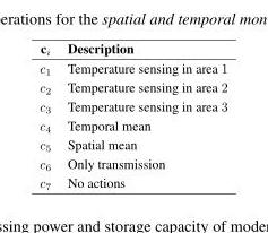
<table><thead><tr><td>c<sub>i</sub></td><td>Description</td></tr></thead><tbody><tr><td>c<sub>1</sub></td><td>Temperature sensing in area 1</td></tr><tr><td>c<sub>2</sub></td><td>Temperature sensing in area 2</td></tr><tr><td>c<sub>3</sub></td><td>Temperature sensing in area 3</td></tr><tr><td>c<sub>4</sub></td><td>Temporal mean</td></tr><tr><td>c<sub>5</sub></td><td>Spatial mean</td></tr><tr><td>c<sub>6</sub></td><td>Only transmission</td></tr><tr><td>c<sub>7</sub></td><td>No actions</td></tr></tbody></table>